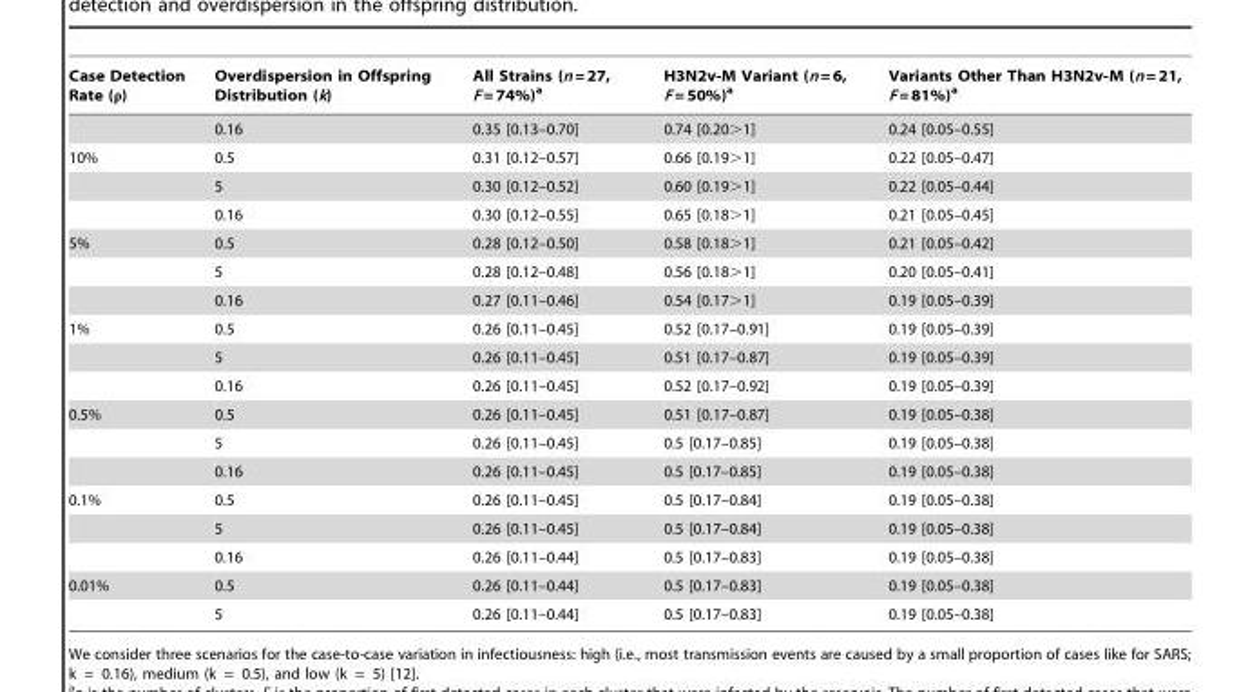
<table><thead><tr><td>Case Detection Rate (ρ)</td><td>Overdispersion in Offspring Distribution (k)</td><td>All Strains (n = 27, F = 74%)<sup>a</sup></td><td>H3N2v-M Variant (n = 6, F = 50%)<sup>a</sup></td><td>Variants Other Than H3N2v-M (n = 21, F = 81%)<sup>a</sup></td></tr></thead><tbody><tr><td></td><td>0.16</td><td>0.35 [0.13–0.70]</td><td>0.74 [0.20&gt;1]</td><td>0.24 [0.05–0.55]</td></tr><tr><td rowspan="3">10%</td><td>0.5</td><td>0.31 [0.12–0.57]</td><td>0.66 [0.19&gt;1]</td><td>0.22 [0.05–0.47]</td></tr><tr><td>5</td><td>0.30 [0.12–0.52]</td><td>0.60 [0.19&gt;1]</td><td>0.22 [0.05–0.44]</td></tr><tr><td>0.16</td><td>0.30 [0.12–0.55]</td><td>0.65 [0.18&gt;1]</td><td>0.21 [0.05–0.45]</td></tr><tr><td rowspan="3">5%</td><td>0.5</td><td>0.28 [0.12–0.50]</td><td>0.58 [0.18&gt;1]</td><td>0.21 [0.05–0.42]</td></tr><tr><td>5</td><td>0.28 [0.12–0.48]</td><td>0.56 [0.18&gt;1]</td><td>0.20 [0.05–0.41]</td></tr><tr><td>0.16</td><td>0.27 [0.11–0.46]</td><td>0.54 [0.17&gt;1]</td><td>0.19 [0.05–0.39]</td></tr><tr><td rowspan="3">1%</td><td>0.5</td><td>0.26 [0.11–0.45]</td><td>0.52 [0.17–0.91]</td><td>0.19 [0.05–0.39]</td></tr><tr><td>5</td><td>0.26 [0.11–0.45]</td><td>0.51 [0.17–0.87]</td><td>0.19 [0.05–0.39]</td></tr><tr><td>0.16</td><td>0.26 [0.11–0.45]</td><td>0.52 [0.17–0.92]</td><td>0.19 [0.05–0.39]</td></tr><tr><td rowspan="3">0.5%</td><td>0.5</td><td>0.26 [0.11–0.45]</td><td>0.51 [0.17–0.87]</td><td>0.19 [0.05–0.38]</td></tr><tr><td>5</td><td>0.26 [0.11–0.45]</td><td>0.5 [0.17–0.85]</td><td>0.19 [0.05–0.38]</td></tr><tr><td>0.16</td><td>0.26 [0.11–0.45]</td><td>0.5 [0.17–0.85]</td><td>0.19 [0.05–0.38]</td></tr><tr><td rowspan="3">0.1%</td><td>0.5</td><td>0.26 [0.11–0.45]</td><td>0.5 [0.17–0.84]</td><td>0.19 [0.05–0.38]</td></tr><tr><td>5</td><td>0.26 [0.11–0.45]</td><td>0.5 [0.17–0.84]</td><td>0.19 [0.05–0.38]</td></tr><tr><td>0.16</td><td>0.26 [0.11–0.44]</td><td>0.5 [0.17–0.83]</td><td>0.19 [0.05–0.38]</td></tr><tr><td rowspan="2">0.01%</td><td>0.5</td><td>0.26 [0.11–0.44]</td><td>0.5 [0.17–0.83]</td><td>0.19 [0.05–0.38]</td></tr><tr><td>5</td><td>0.26 [0.11–0.44]</td><td>0.5 [0.17–0.83]</td><td>0.19 [0.05–0.38]</td></tr></tbody></table>